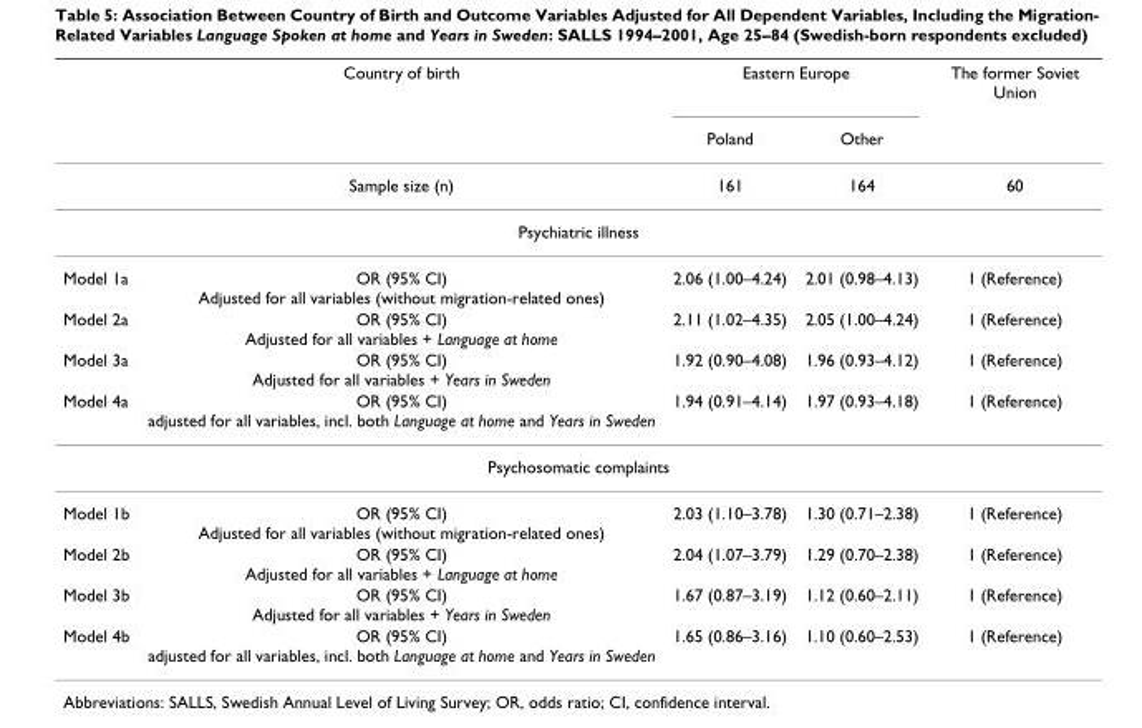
<table><thead><tr><td rowspan="2"></td><td rowspan="2">Country of birth</td><td colspan="2">Eastern Europe</td><td rowspan="2">The former Soviet Union</td></tr><tr><td>Poland</td><td>Other</td></tr></thead><tbody><tr><td></td><td>Sample size (n)</td><td>161</td><td>164</td><td>60</td></tr><tr><td colspan="5">Psychiatric illness</td></tr><tr><td>Model 1a</td><td>OR (95% CI) Adjusted for all variables (without migration-related ones)</td><td>2.06 (1.00–4.24)</td><td>2.01 (0.98–4.13)</td><td>1 (Reference)</td></tr><tr><td>Model 2a</td><td>OR (95% CI) Adjusted for all variables + Language at home</td><td>2.11 (1.02–4.35)</td><td>2.05 (1.00–4.24)</td><td>1 (Reference)</td></tr><tr><td>Model 3a</td><td>OR (95% CI) Adjusted for all variables + Years in Sweden</td><td>1.92 (0.90–4.08)</td><td>1.96 (0.93–4.12)</td><td>1 (Reference)</td></tr><tr><td>Model 4a</td><td>OR (95% CI) adjusted for all variables, incl. both Language at home and Years in Sweden</td><td>1.94 (0.91–4.14)</td><td>1.97 (0.93–4.18)</td><td>1 (Reference)</td></tr><tr><td colspan="5">Psychosomatic complaints</td></tr><tr><td>Model 1b</td><td>OR (95% CI) Adjusted for all variables (without migration-related ones)</td><td>2.03 (1.10–3.78)</td><td>1.30 (0.71–2.38)</td><td>1 (Reference)</td></tr><tr><td>Model 2b</td><td>OR (95% CI) Adjusted for all variables + Language at home</td><td>2.04 (1.07–3.79)</td><td>1.29 (0.70–2.38)</td><td>1 (Reference)</td></tr><tr><td>Model 3b</td><td>OR (95% CI) Adjusted for all variables + Years in Sweden</td><td>1.67 (0.87–3.19)</td><td>1.12 (0.60–2.11)</td><td>1 (Reference)</td></tr><tr><td>Model 4b</td><td>OR (95% CI) adjusted for all variables, incl. both Language at home and Years in Sweden</td><td>1.65 (0.86–3.16)</td><td>1.10 (0.60–2.53)</td><td>1 (Reference)</td></tr></tbody></table>